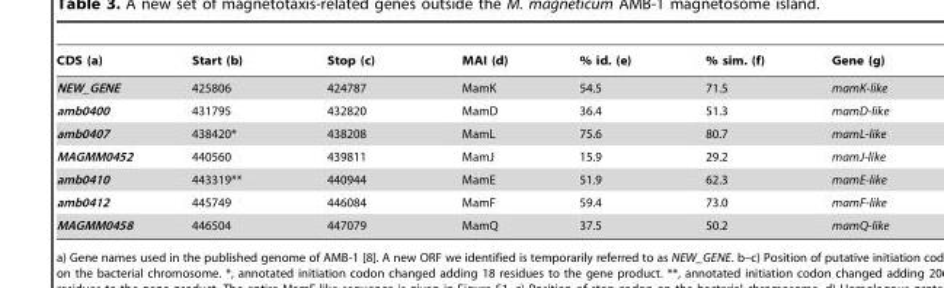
<table><thead><tr><td>CDS (a)</td><td>Start (b)</td><td>Stop (c)</td><td>MAI (d)</td><td>% id. (e)</td><td>% sim. (f)</td><td>Gene (g)</td></tr></thead><tbody><tr><td>NEW_GENE</td><td>425806</td><td>424787</td><td>MamK</td><td>54.5</td><td>71.5</td><td>mamK-like</td></tr><tr><td>amb0400</td><td>431795</td><td>432820</td><td>MamD</td><td>36.4</td><td>51.3</td><td>mamD-like</td></tr><tr><td>amb0407</td><td>438420*</td><td>438208</td><td>MamL</td><td>75.6</td><td>80.7</td><td>mamL-like</td></tr><tr><td>MAGMM0452</td><td>440560</td><td>439811</td><td>MamJ</td><td>15.9</td><td>29.2</td><td>mamJ-like</td></tr><tr><td>amb0410</td><td>443319**</td><td>440944</td><td>MamE</td><td>51.9</td><td>62.3</td><td>mamE-like</td></tr><tr><td>amb0412</td><td>445749</td><td>446084</td><td>MamF</td><td>59.4</td><td>73.0</td><td>mamF-like</td></tr><tr><td>MAGMM0458</td><td>446504</td><td>447079</td><td>MamQ</td><td>37.5</td><td>50.2</td><td>mamQ-like</td></tr></tbody></table>